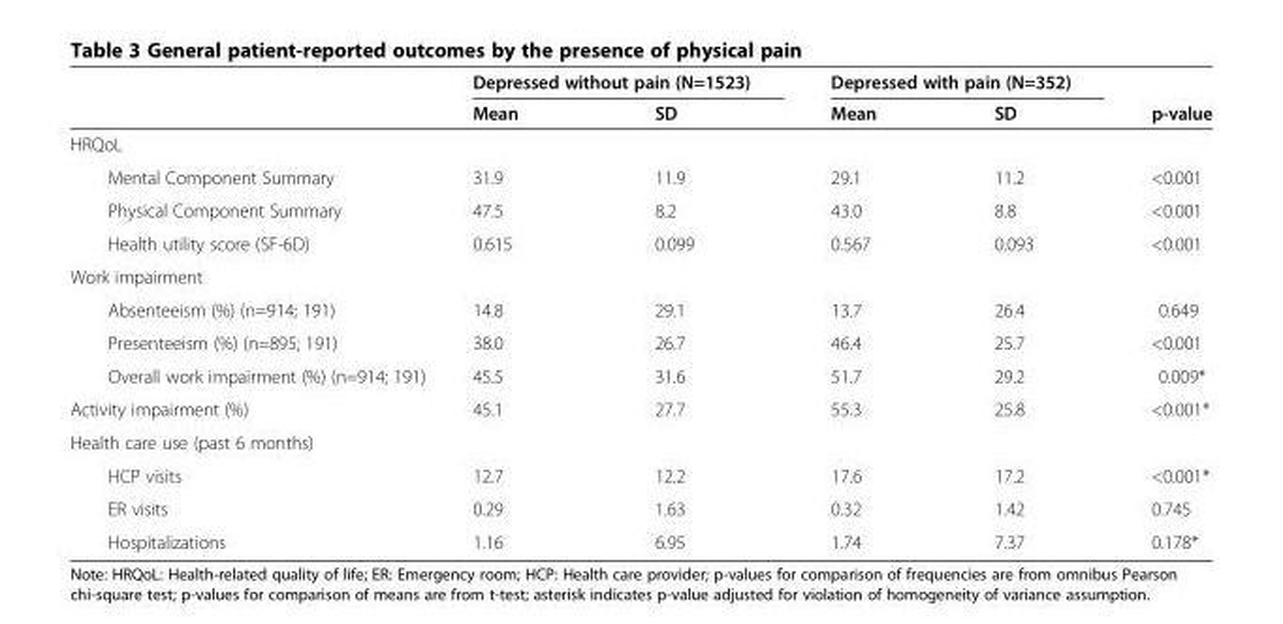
<table><thead><tr><td rowspan="2"></td><td colspan="2">Depressed without pain (N=1523)</td><td colspan="2">Depressed with pain (N=352)</td><td rowspan="2">p-value</td></tr><tr><td>Mean</td><td>SD</td><td>Mean</td><td>SD</td></tr></thead><tbody><tr><td colspan="6">HRQoL</td></tr><tr><td>Mental Component Summary</td><td>31.9</td><td>11.9</td><td>29.1</td><td>11.2</td><td>&lt;0.001</td></tr><tr><td>Physical Component Summary</td><td>47.5</td><td>8.2</td><td>43.0</td><td>8.8</td><td>&lt;0.001</td></tr><tr><td>Health utility score (SF-6D)</td><td>0.615</td><td>0.099</td><td>0.567</td><td>0.093</td><td>&lt;0.001</td></tr><tr><td colspan="6">Work impairment</td></tr><tr><td>Absenteeism (%) (n=914; 191)</td><td>14.8</td><td>29.1</td><td>13.7</td><td>26.4</td><td>0.649</td></tr><tr><td>Presenteeism (%) (n=895; 191)</td><td>38.0</td><td>26.7</td><td>46.4</td><td>25.7</td><td>&lt;0.001</td></tr><tr><td>Overall work impairment (%) (n=914; 191)</td><td>45.5</td><td>31.6</td><td>51.7</td><td>29.2</td><td>0.009*</td></tr><tr><td>Activity impairment (%)</td><td>45.1</td><td>27.7</td><td>55.3</td><td>25.8</td><td>&lt;0.001*</td></tr><tr><td colspan="6">Health care use (past 6 months)</td></tr><tr><td>HCP visits</td><td>12.7</td><td>12.2</td><td>17.6</td><td>17.2</td><td>&lt;0.001*</td></tr><tr><td>ER visits</td><td>0.29</td><td>1.63</td><td>0.32</td><td>1.42</td><td>0.745</td></tr><tr><td>Hospitalizations</td><td>1.16</td><td>6.95</td><td>1.74</td><td>7.37</td><td>0.178*</td></tr></tbody></table>